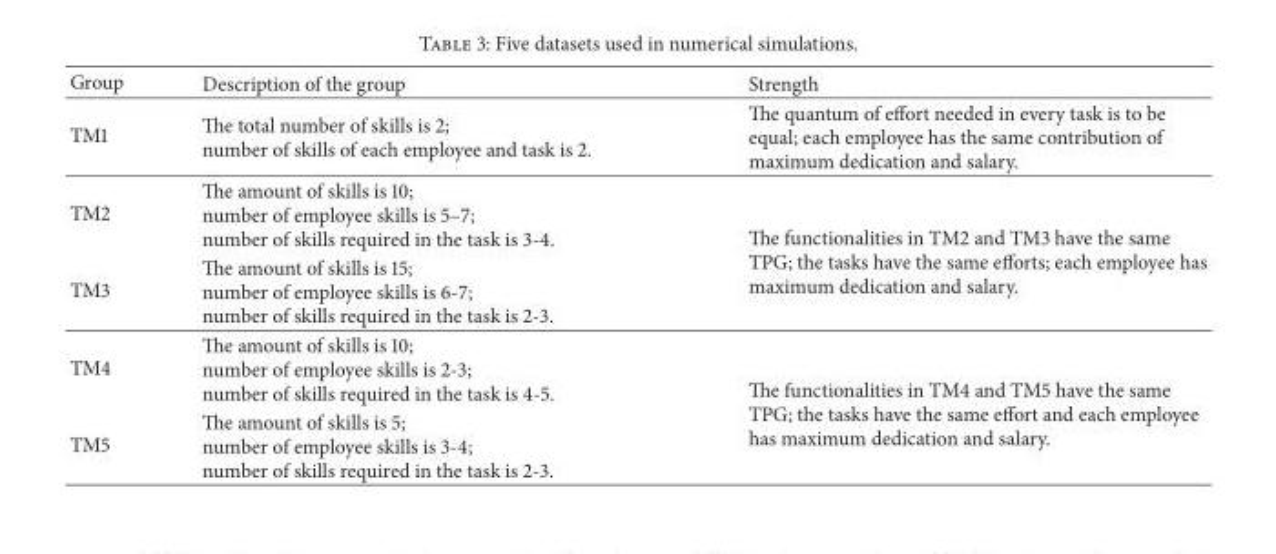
<table><thead><tr><td>Group</td><td>Description of the group</td><td>Strength</td></tr></thead><tbody><tr><td>TM1</td><td>The total number of skills is 2; number of skills of each employee and task is 2.</td><td>The quantum of effort needed in every task is to be equal; each employee has the same contribution of maximum dedication and salary.</td></tr><tr><td>TM2</td><td>The amount of skills is 10; number of employee skills is 5–7; number of skills required in the task is 3-4.</td><td rowspan="2">The functionalities in TM2 and TM3 have the same TPG; the tasks have the same efforts; each employee has maximum dedication and salary.</td></tr><tr><td>TM3</td><td>The amount of skills is 15; number of employee skills is 6-7; number of skills required in the task is 2-3.</td></tr><tr><td>TM4</td><td>The amount of skills is 10; number of employee skills is 2-3; number of skills required in the task is 4-5.</td><td rowspan="2">The functionalities in TM4 and TM5 have the same TPG; the tasks have the same effort and each employee has maximum dedication and salary.</td></tr><tr><td>TM5</td><td>The amount of skills is 5; number of employee skills is 3-4; number of skills required in the task is 2-3.</td></tr></tbody></table>